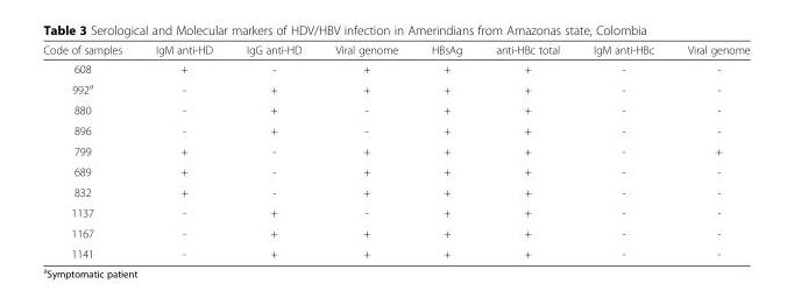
<table><thead><tr><td>Code of samples</td><td>IgM anti-HD</td><td>IgG anti-HD</td><td>Viral genome</td><td>HBsAg</td><td>anti-HBc total</td><td>IgM anti-HBc</td><td>Viral genome</td></tr></thead><tbody><tr><td>608</td><td>+</td><td>-</td><td>+</td><td>+</td><td>+</td><td>-</td><td>-</td></tr><tr><td>992<sup>a</sup></td><td>-</td><td>+</td><td>+</td><td>+</td><td>+</td><td>-</td><td>-</td></tr><tr><td>880</td><td>-</td><td>+</td><td>-</td><td>+</td><td>+</td><td>-</td><td>-</td></tr><tr><td>896</td><td>-</td><td>+</td><td>-</td><td>+</td><td>+</td><td>-</td><td>-</td></tr><tr><td>799</td><td>+</td><td>-</td><td>+</td><td>+</td><td>+</td><td>-</td><td>+</td></tr><tr><td>689</td><td>+</td><td>-</td><td>+</td><td>+</td><td>+</td><td>-</td><td>-</td></tr><tr><td>832</td><td>+</td><td>-</td><td>+</td><td>+</td><td>+</td><td>-</td><td>-</td></tr><tr><td>1137</td><td>-</td><td>+</td><td>-</td><td>+</td><td>+</td><td>-</td><td>-</td></tr><tr><td>1167</td><td>-</td><td>+</td><td>+</td><td>+</td><td>+</td><td>-</td><td>-</td></tr><tr><td>1141</td><td>-</td><td>+</td><td>+</td><td>+</td><td>+</td><td>-</td><td>-</td></tr></tbody></table>